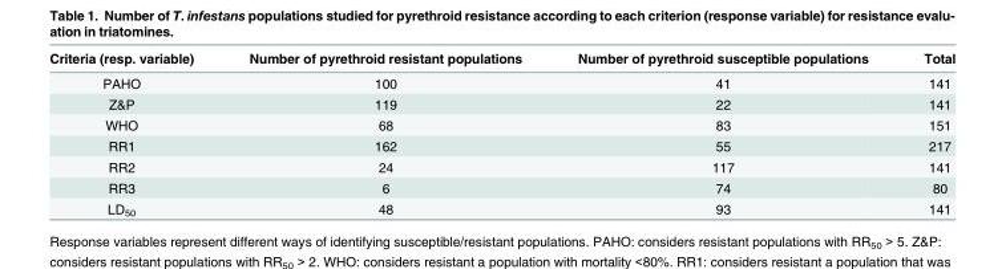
<table><thead><tr><td>Criteria (resp. variable)</td><td>Number of pyrethroid resistant populations</td><td>Number of pyrethroid susceptible populations</td><td>Total</td></tr></thead><tbody><tr><td>PAHO</td><td>100</td><td>41</td><td>141</td></tr><tr><td>Z&amp;P</td><td>119</td><td>22</td><td>141</td></tr><tr><td>WHO</td><td>68</td><td>83</td><td>151</td></tr><tr><td>RR1</td><td>162</td><td>55</td><td>217</td></tr><tr><td>RR2</td><td>24</td><td>117</td><td>141</td></tr><tr><td>RR3</td><td>6</td><td>74</td><td>80</td></tr><tr><td>LD<sub>50</sub></td><td>48</td><td>93</td><td>141</td></tr></tbody></table>